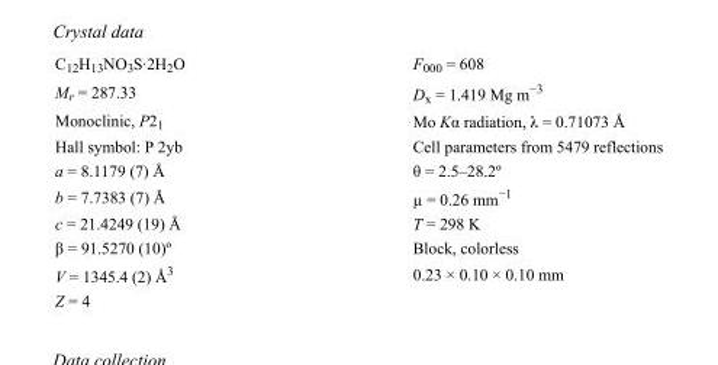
<table><tbody><tr><td>C<sub>12</sub>H<sub>13</sub>NO<sub>3</sub>S·2H<sub>2</sub>O</td><td>F000 = 608</td></tr><tr><td>M<sub>r</sub> = 287.33</td><td>D<sub>x</sub> = 1.419 Mg m<sup>−3</sup></td></tr><tr><td>Monoclinic, P2<sub>1</sub></td><td>Mo Kα radiation, λ = 0.71073 Å</td></tr><tr><td>Hall symbol: P 2yb</td><td>Cell parameters from 5479 reflections</td></tr><tr><td>a = 8.1179 (7) Å</td><td>θ = 2.5–28.2º</td></tr><tr><td>b = 7.7383 (7) Å</td><td>µ = 0.26 mm<sup>−1</sup></td></tr><tr><td>c = 21.4249 (19) Å</td><td>T = 298 K</td></tr><tr><td>β = 91.5270 (10)º</td><td>Block, colorless</td></tr><tr><td>V = 1345.4 (2) Å<sup>3</sup></td><td>0.23 × 0.10 × 0.10 mm</td></tr><tr><td>Z = 4</td><td></td></tr></tbody></table>